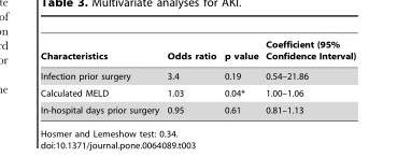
<table><thead><tr><td>Characteristics</td><td>Odds ratio</td><td>p value</td><td>Coefficient (95% Confidence Interval)</td></tr></thead><tbody><tr><td>Infection prior surgery</td><td>3.4</td><td>0.19</td><td>0.54–21.86</td></tr><tr><td>Calculated MELD</td><td>1.03</td><td>0.04*</td><td>1.00–1.06</td></tr><tr><td>In-hospital days prior surgery</td><td>0.95</td><td>0.61</td><td>0.81–1.13</td></tr></tbody></table>